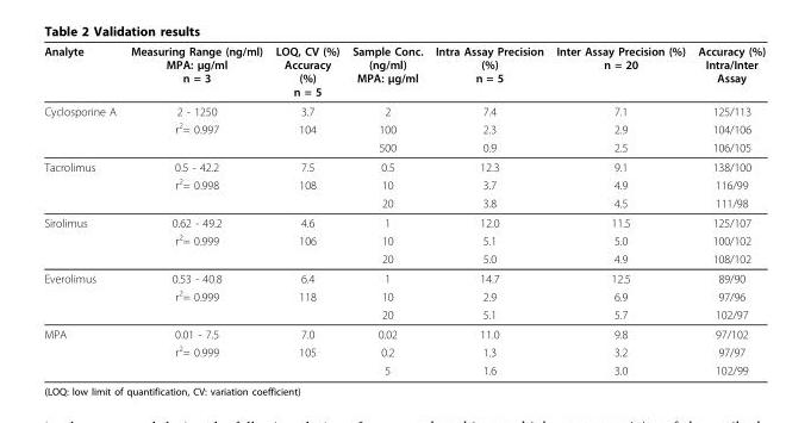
<table><thead><tr><td>Analyte</td><td>Measuring Range (ng/ml) MPA: μg/ml n = 3</td><td>LOQ, CV (%) Accuracy (%) n = 5</td><td>Sample Conc. (ng/ml) MPA: μg/ml</td><td>Intra Assay Precision (%) n = 5</td><td>Inter Assay Precision (%) n = 20</td><td>Accuracy (%) Intra/Inter Assay</td></tr></thead><tbody><tr><td rowspan="3">Cyclosporine A</td><td>2 - 1250</td><td>3.7</td><td>2</td><td>7.4</td><td>7.1</td><td>125/113</td></tr><tr><td>r<sup>2</sup>= 0.997</td><td>104</td><td>100</td><td>2.3</td><td>2.9</td><td>104/106</td></tr><tr><td></td><td></td><td>500</td><td>0.9</td><td>2.5</td><td>106/105</td></tr><tr><td rowspan="3">Tacrolimus</td><td>0.5 - 42.2</td><td>7.5</td><td>0.5</td><td>12.3</td><td>9.1</td><td>138/100</td></tr><tr><td>r<sup>2</sup>= 0.998</td><td>108</td><td>10</td><td>3.7</td><td>4.9</td><td>116/99</td></tr><tr><td></td><td></td><td>20</td><td>3.8</td><td>4.5</td><td>111/98</td></tr><tr><td rowspan="3">Sirolimus</td><td>0.62 - 49.2</td><td>4.6</td><td>1</td><td>12.0</td><td>11.5</td><td>125/107</td></tr><tr><td>r<sup>2</sup>= 0.999</td><td>106</td><td>10</td><td>5.1</td><td>5.0</td><td>100/102</td></tr><tr><td></td><td></td><td>20</td><td>5.0</td><td>4.9</td><td>108/102</td></tr><tr><td rowspan="3">Everolimus</td><td>0.53 - 40.8</td><td>6.4</td><td>1</td><td>14.7</td><td>12.5</td><td>89/90</td></tr><tr><td>r<sup>2</sup>= 0.999</td><td>118</td><td>10</td><td>2.9</td><td>6.9</td><td>97/96</td></tr><tr><td></td><td></td><td>20</td><td>5.1</td><td>5.7</td><td>102/97</td></tr><tr><td rowspan="3">MPA</td><td>0.01 - 7.5</td><td>7.0</td><td>0.02</td><td>11.0</td><td>9.8</td><td>97/102</td></tr><tr><td>r<sup>2</sup>= 0.999</td><td>105</td><td>0.2</td><td>1.3</td><td>3.2</td><td>97/97</td></tr><tr><td></td><td></td><td>5</td><td>1.6</td><td>3.0</td><td>102/99</td></tr></tbody></table>